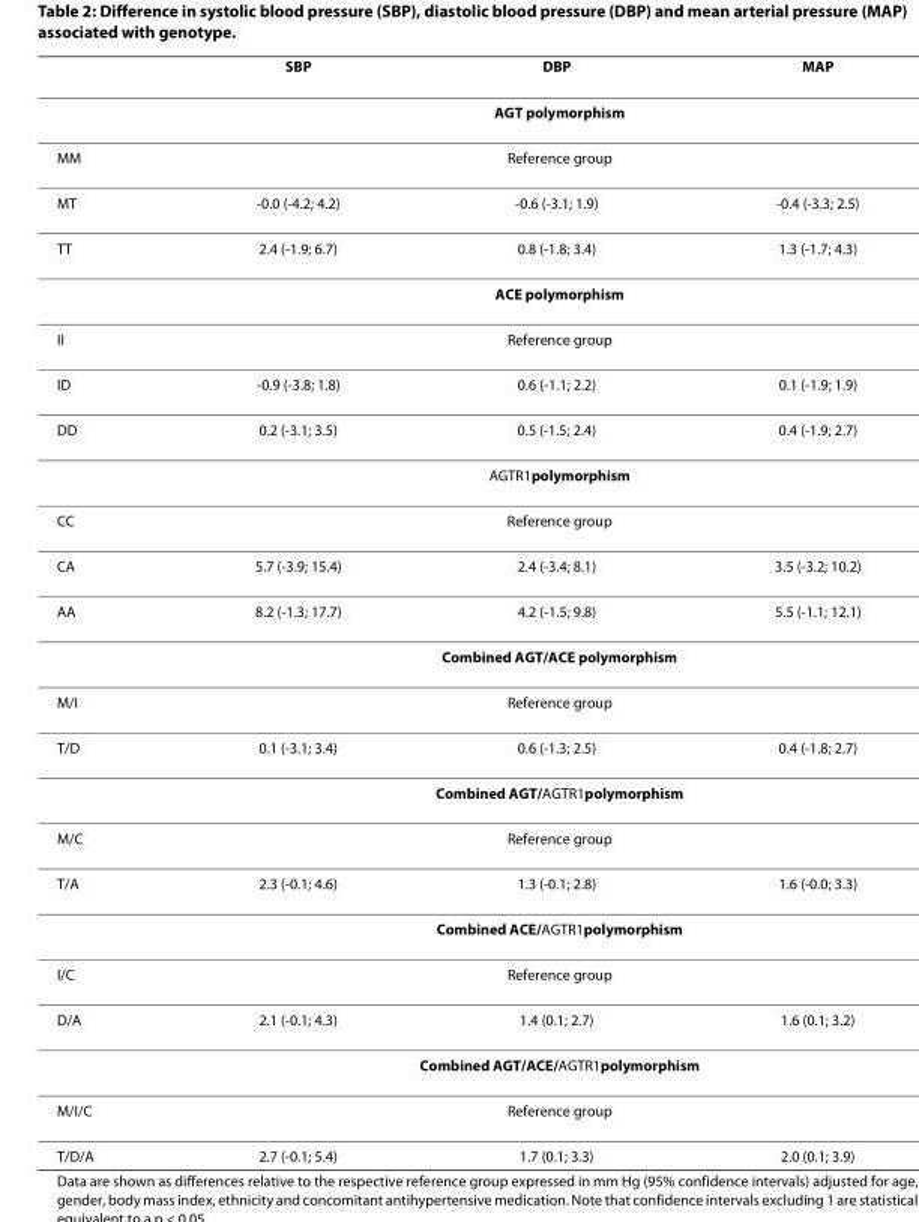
<table><thead><tr><td></td><td>SBP</td><td>DBP</td><td>MAP</td></tr></thead><tbody><tr><td></td><td colspan="3">AGT polymorphism</td></tr><tr><td>MM</td><td colspan="3">Reference group</td></tr><tr><td>MT</td><td>-0.0 (-4.2; 4.2)</td><td>-0.6 (-3.1; 1.9)</td><td>-0.4 (-3.3; 2.5)</td></tr><tr><td rowspan="2">TT</td><td>2.4 (-1.9; 6.7)</td><td>0.8 (-1.8; 3.4)</td><td>1.3 (-1.7; 4.3)</td></tr><tr><td colspan="3">ACE polymorphism</td></tr><tr><td>II</td><td colspan="3">Reference group</td></tr><tr><td>ID</td><td>-0.9 (-3.8; 1.8)</td><td>0.6 (-1.1; 2.2)</td><td>0.1 (-1.9; 1.9)</td></tr><tr><td rowspan="2">DD</td><td>0.2 (-3.1; 3.5)</td><td>0.5 (-1.5; 2.4)</td><td>0.4 (-1.9; 2.7)</td></tr><tr><td colspan="3">AGTR1polymorphism</td></tr><tr><td>CC</td><td colspan="3">Reference group</td></tr><tr><td>CA</td><td>5.7 (-3.9; 15.4)</td><td>2.4 (-3.4; 8.1)</td><td>3.5 (-3.2; 10.2)</td></tr><tr><td rowspan="2">AA</td><td>8.2 (-1.3; 17.7)</td><td>4.2 (-1.5; 9.8)</td><td>5.5 (-1.1; 12.1)</td></tr><tr><td colspan="3">Combined AGT/ACE polymorphism</td></tr><tr><td>M/I</td><td colspan="3">Reference group</td></tr><tr><td rowspan="2">T/D</td><td>0.1 (-3.1; 3.4)</td><td>0.6 (-1.3; 2.5)</td><td>0.4 (-1.8; 2.7)</td></tr><tr><td colspan="3">Combined AGT/AGTR1polymorphism</td></tr><tr><td>M/C</td><td colspan="3">Reference group</td></tr><tr><td rowspan="2">T/A</td><td>2.3 (-0.1; 4.6)</td><td>1.3 (-0.1; 2.8)</td><td>1.6 (-0.0; 3.3)</td></tr><tr><td colspan="3">Combined ACE/AGTR1polymorphism</td></tr><tr><td>I/C</td><td colspan="3">Reference group</td></tr><tr><td rowspan="2">D/A</td><td>2.1 (-0.1; 4.3)</td><td>1.4 (0.1; 2.7)</td><td>1.6 (0.1; 3.2)</td></tr><tr><td colspan="3">Combined AGT/ACE/AGTR1polymorphism</td></tr><tr><td>M/I/C</td><td colspan="3">Reference group</td></tr><tr><td>T/D/A</td><td>2.7 (-0.1; 5.4)</td><td>1.7 (0.1; 3.3)</td><td>2.0 (0.1; 3.9)</td></tr></tbody></table>